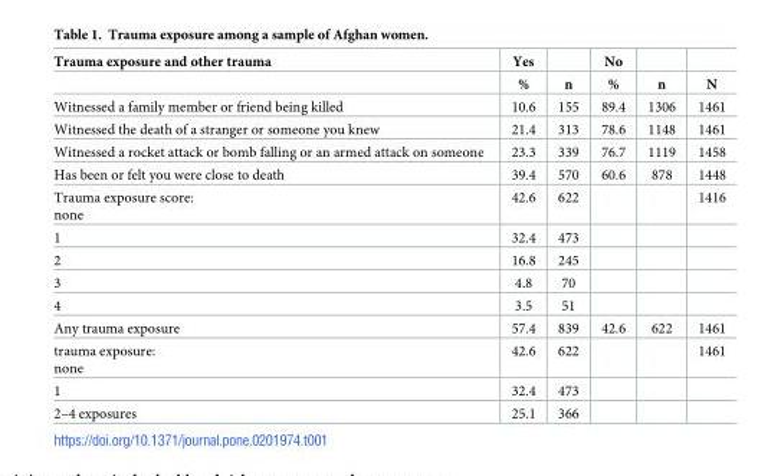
<table><thead><tr><td rowspan="2">Trauma exposure and other trauma</td><td rowspan="2">Yes %</td><td rowspan="2">n</td><td rowspan="2">No %</td><td rowspan="2">n</td><td rowspan="2">N</td></tr><tr></tr></thead><tbody><tr><td>Witnessed a family member or friend being killed</td><td>10.6</td><td>155</td><td>89.4</td><td>1306</td><td>1461</td></tr><tr><td>Witnessed the death of a stranger or someone you knew</td><td>21.4</td><td>313</td><td>78.6</td><td>1148</td><td>1461</td></tr><tr><td>Witnessed a rocket attack or bomb falling or an armed attack on someone</td><td>23.3</td><td>339</td><td>76.7</td><td>1119</td><td>1458</td></tr><tr><td>Has been or felt you were close to death</td><td>39.4</td><td>570</td><td>60.6</td><td>878</td><td>1448</td></tr><tr><td>Trauma exposure score: none</td><td>42.6</td><td>622</td><td></td><td></td><td>1416</td></tr><tr><td>1</td><td>32.4</td><td>473</td><td></td><td></td><td></td></tr><tr><td>2</td><td>16.8</td><td>245</td><td></td><td></td><td></td></tr><tr><td>3</td><td>4.8</td><td>70</td><td></td><td></td><td></td></tr><tr><td>4</td><td>3.5</td><td>51</td><td></td><td></td><td></td></tr><tr><td>Any trauma exposure</td><td>57.4</td><td>839</td><td>42.6</td><td>622</td><td>1461</td></tr><tr><td>trauma exposure: none</td><td>42.6</td><td>622</td><td></td><td></td><td>1461</td></tr><tr><td>1</td><td>32.4</td><td>473</td><td></td><td></td><td></td></tr><tr><td>2–4 exposures</td><td>25.1</td><td>366</td><td></td><td></td><td></td></tr></tbody></table>